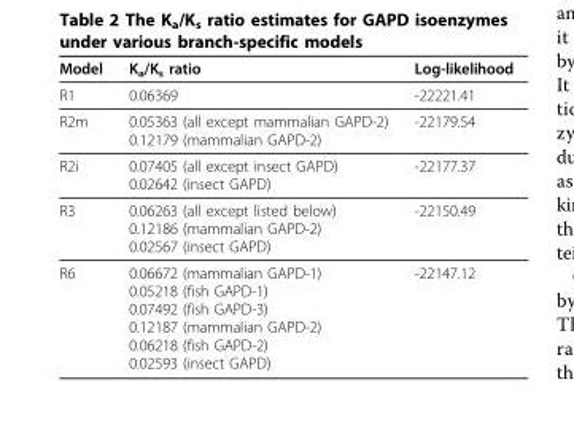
<table><thead><tr><td>Model</td><td>K<sub>a</sub>/K<sub>s</sub> ratio</td><td>Log-likelihood</td></tr></thead><tbody><tr><td>R1</td><td>0.06369</td><td>-22221.41</td></tr><tr><td>R2m</td><td>0.05363 (all except mammalian GAPD-2) 0.12179 (mammalian GAPD-2)</td><td>-22179.54</td></tr><tr><td>R2i</td><td>0.07405 (all except insect GAPD) 0.02642 (insect GAPD)</td><td>-22177.37</td></tr><tr><td>R3</td><td>0.06263 (all except listed below) 0.12186 (mammalian GAPD-2) 0.02567 (insect GAPD)</td><td>-22150.49</td></tr><tr><td>R6</td><td>0.06672 (mammalian GAPD-1) 0.05218 (fish GAPD-1) 0.07492 (fish GAPD-3) 0.12187 (mammalian GAPD-2) 0.06218 (fish GAPD-2) 0.02593 (insect GAPD)</td><td>-22147.12</td></tr></tbody></table>